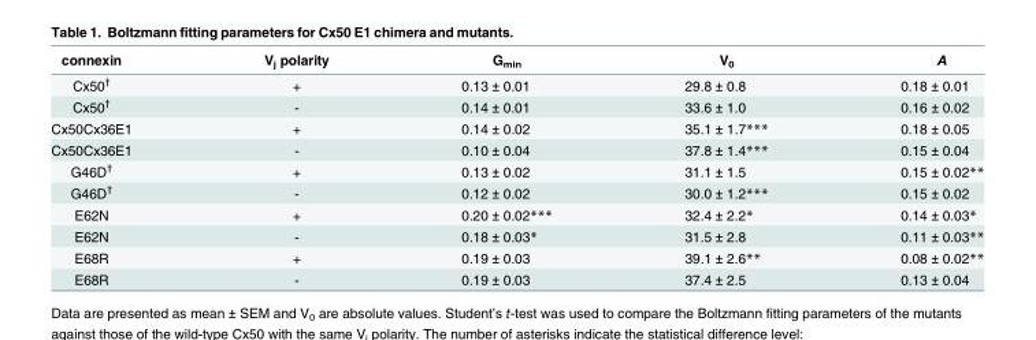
<table><thead><tr><td>connexin</td><td>V<sub>j</sub> polarity</td><td>G<sub>min</sub></td><td>V<sub>0</sub></td><td>A</td></tr></thead><tbody><tr><td>Cx50<sup>†</sup></td><td>+</td><td>0.13 ± 0.01</td><td>29.8 ± 0.8</td><td>0.18 ± 0.01</td></tr><tr><td>Cx50<sup>†</sup></td><td>-</td><td>0.14 ± 0.01</td><td>33.6 ± 1.0</td><td>0.16 ± 0.02</td></tr><tr><td>Cx50Cx36E1</td><td>+</td><td>0.14 ± 0.02</td><td>35.1 ± 1.7***</td><td>0.18 ± 0.05</td></tr><tr><td>Cx50Cx36E1</td><td>-</td><td>0.10 ± 0.04</td><td>37.8 ± 1.4***</td><td>0.15 ± 0.04</td></tr><tr><td>G46D<sup>†</sup></td><td>+</td><td>0.13 ± 0.02</td><td>31.1 ± 1.5</td><td>0.15 ± 0.02**</td></tr><tr><td>G46D<sup>†</sup></td><td>-</td><td>0.12 ± 0.02</td><td>30.0 ± 1.2***</td><td>0.15 ± 0.02</td></tr><tr><td>E62N</td><td>+</td><td>0.20 ± 0.02***</td><td>32.4 ± 2.2*</td><td>0.14 ± 0.03*</td></tr><tr><td>E62N</td><td>-</td><td>0.18 ± 0.03*</td><td>31.5 ± 2.8</td><td>0.11 ± 0.03**</td></tr><tr><td>E68R</td><td>+</td><td>0.19 ± 0.03</td><td>39.1 ± 2.6**</td><td>0.08 ± 0.02**</td></tr><tr><td>E68R</td><td>-</td><td>0.19 ± 0.03</td><td>37.4 ± 2.5</td><td>0.13 ± 0.04</td></tr></tbody></table>